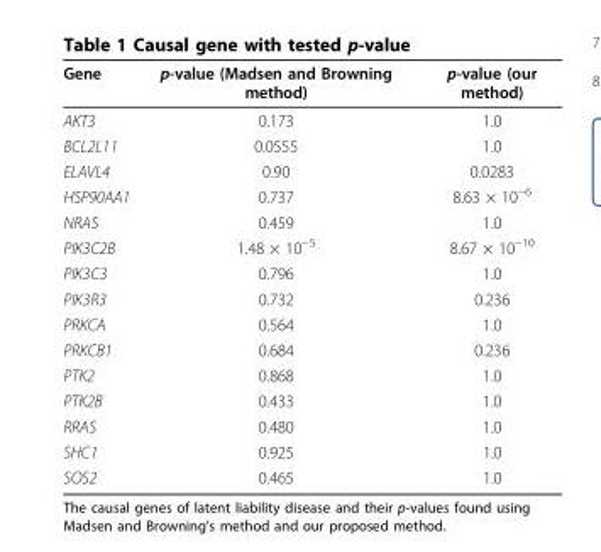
<table><thead><tr><td>Gene</td><td>p-value (Madsen and Browning method)</td><td>p-value (our method)</td></tr></thead><tbody><tr><td>AKT3</td><td>0.173</td><td>1.0</td></tr><tr><td>BCL2L11</td><td>0.0555</td><td>1.0</td></tr><tr><td>ELAVL4</td><td>0.90</td><td>0.0283</td></tr><tr><td>HSP90AA1</td><td>0.737</td><td>8.63 × 10<sup>−6</sup></td></tr><tr><td>NRAS</td><td>0.459</td><td>1.0</td></tr><tr><td>PIK3C2B</td><td>1.48 × 10<sup>−5</sup></td><td>8.67 × 10<sup>−10</sup></td></tr><tr><td>PIK3C3</td><td>0.796</td><td>1.0</td></tr><tr><td>PIK3R3</td><td>0.732</td><td>0.236</td></tr><tr><td>PRKCA</td><td>0.564</td><td>1.0</td></tr><tr><td>PRKCB1</td><td>0.684</td><td>0.236</td></tr><tr><td>PTK2</td><td>0.868</td><td>1.0</td></tr><tr><td>PTK2B</td><td>0.433</td><td>1.0</td></tr><tr><td>RRAS</td><td>0.480</td><td>1.0</td></tr><tr><td>SHC1</td><td>0.925</td><td>1.0</td></tr><tr><td>SOS2</td><td>0.465</td><td>1.0</td></tr></tbody></table>